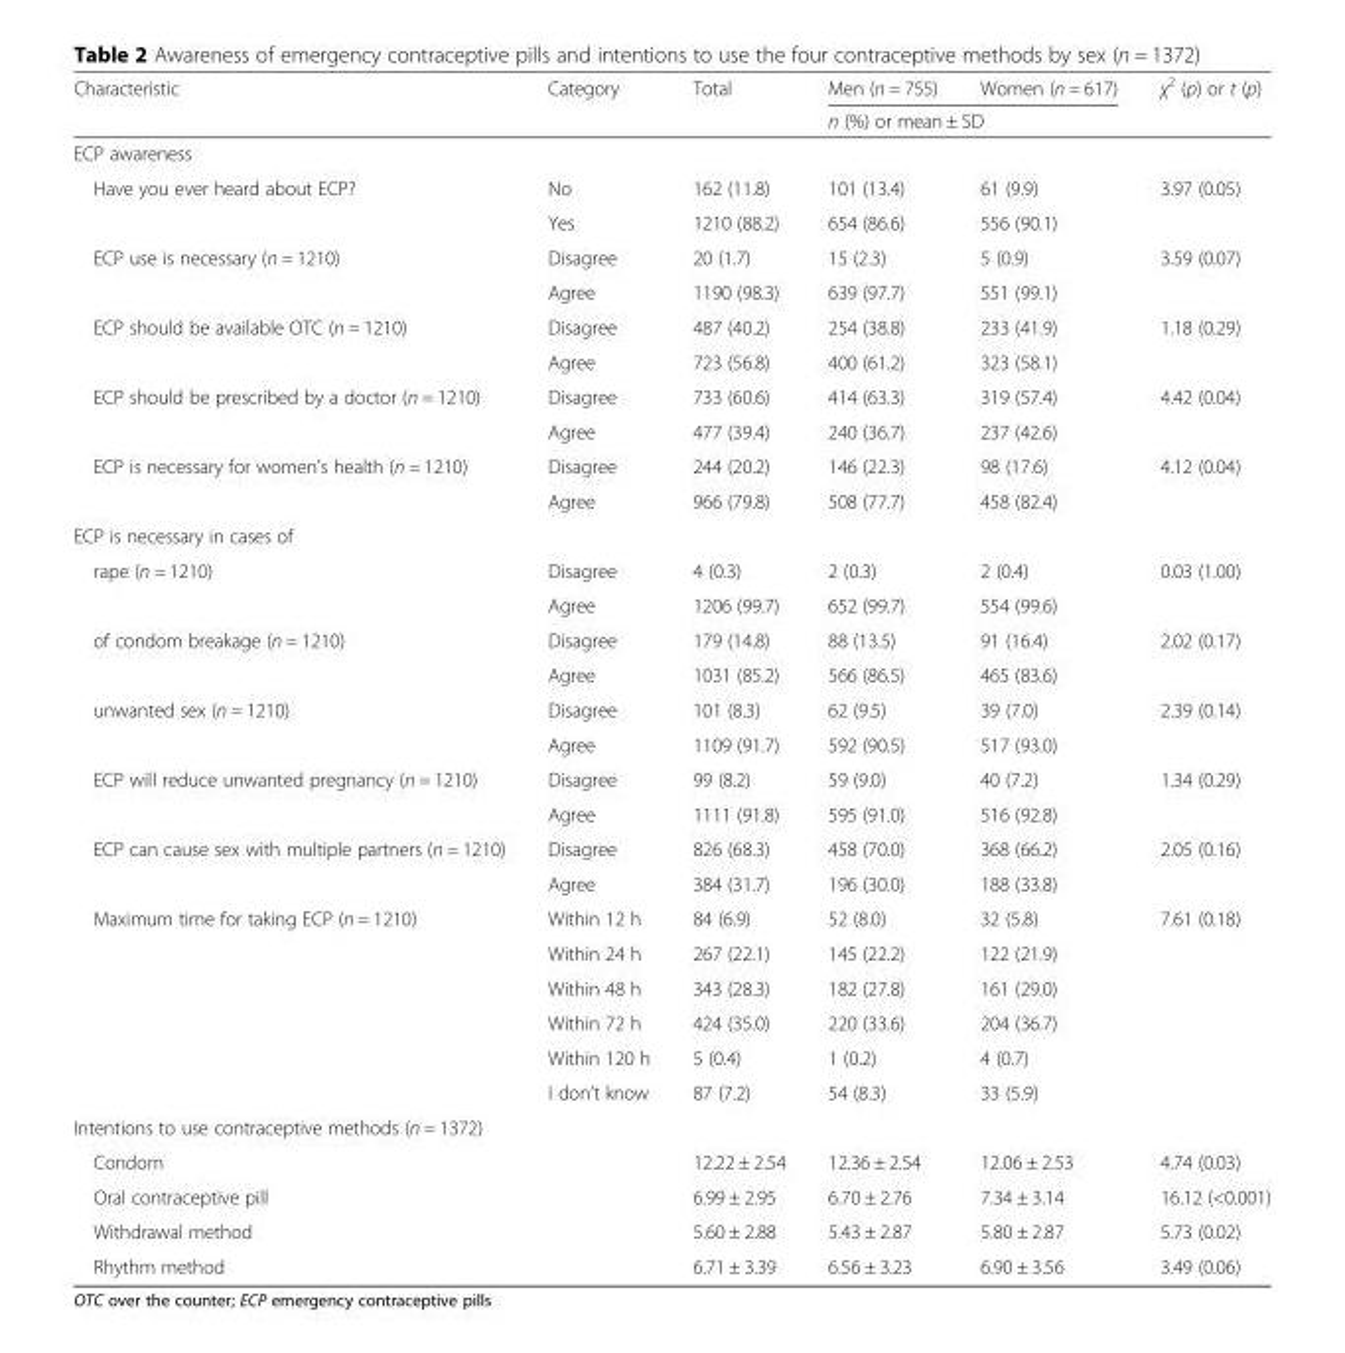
<table><thead><tr><td rowspan="2">Characteristic</td><td rowspan="2">Category</td><td rowspan="2">Total</td><td>Men (n = 755)</td><td>Women (n = 617)</td><td rowspan="2">χ<sup>2</sup> (p) or t (p)</td></tr><tr><td colspan="2">n (%) or mean ± SD</td></tr></thead><tbody><tr><td colspan="6">ECP awareness</td></tr><tr><td rowspan="2">Have you ever heard about ECP?</td><td>No</td><td>162 (11.8)</td><td>101 (13.4)</td><td>61 (9.9)</td><td>3.97 (0.05)</td></tr><tr><td>Yes</td><td>1210 (88.2)</td><td>654 (86.6)</td><td>556 (90.1)</td><td></td></tr><tr><td rowspan="2">ECP use is necessary (n = 1210)</td><td>Disagree</td><td>20 (1.7)</td><td>15 (2.3)</td><td>5 (0.9)</td><td>3.59 (0.07)</td></tr><tr><td>Agree</td><td>1190 (98.3)</td><td>639 (97.7)</td><td>551 (99.1)</td><td></td></tr><tr><td rowspan="2">ECP should be available OTC (n = 1210)</td><td>Disagree</td><td>487 (40.2)</td><td>254 (38.8)</td><td>233 (41.9)</td><td>1.18 (0.29)</td></tr><tr><td>Agree</td><td>723 (56.8)</td><td>400 (61.2)</td><td>323 (58.1)</td><td></td></tr><tr><td rowspan="2">ECP should be prescribed by a doctor (n = 1210)</td><td>Disagree</td><td>733 (60.6)</td><td>414 (63.3)</td><td>319 (57.4)</td><td>4.42 (0.04)</td></tr><tr><td>Agree</td><td>477 (39.4)</td><td>240 (36.7)</td><td>237 (42.6)</td><td></td></tr><tr><td rowspan="2">ECP is necessary for women’s health (n = 1210)</td><td>Disagree</td><td>244 (20.2)</td><td>146 (22.3)</td><td>98 (17.6)</td><td>4.12 (0.04)</td></tr><tr><td>Agree</td><td>966 (79.8)</td><td>508 (77.7)</td><td>458 (82.4)</td><td></td></tr><tr><td colspan="6">ECP is necessary in cases of</td></tr><tr><td rowspan="2">rape (n = 1210)</td><td>Disagree</td><td>4 (0.3)</td><td>2 (0.3)</td><td>2 (0.4)</td><td>0.03 (1.00)</td></tr><tr><td>Agree</td><td>1206 (99.7)</td><td>652 (99.7)</td><td>554 (99.6)</td><td></td></tr><tr><td rowspan="2">of condom breakage (n = 1210)</td><td>Disagree</td><td>179 (14.8)</td><td>88 (13.5)</td><td>91 (16.4)</td><td>2.02 (0.17)</td></tr><tr><td>Agree</td><td>1031 (85.2)</td><td>566 (86.5)</td><td>465 (83.6)</td><td></td></tr><tr><td rowspan="2">unwanted sex (n = 1210)</td><td>Disagree</td><td>101 (8.3)</td><td>62 (9.5)</td><td>39 (7.0)</td><td>2.39 (0.14)</td></tr><tr><td>Agree</td><td>1109 (91.7)</td><td>592 (90.5)</td><td>517 (93.0)</td><td></td></tr><tr><td rowspan="2">ECP will reduce unwanted pregnancy (n = 1210)</td><td>Disagree</td><td>99 (8.2)</td><td>59 (9.0)</td><td>40 (7.2)</td><td>1.34 (0.29)</td></tr><tr><td>Agree</td><td>1111 (91.8)</td><td>595 (91.0)</td><td>516 (92.8)</td><td></td></tr><tr><td rowspan="2">ECP can cause sex with multiple partners (n = 1210)</td><td>Disagree</td><td>826 (68.3)</td><td>458 (70.0)</td><td>368 (66.2)</td><td>2.05 (0.16)</td></tr><tr><td>Agree</td><td>384 (31.7)</td><td>196 (30.0)</td><td>188 (33.8)</td><td></td></tr><tr><td rowspan="6">Maximum time for taking ECP (n = 1210)</td><td>Within 12 h</td><td>84 (6.9)</td><td>52 (8.0)</td><td>32 (5.8)</td><td>7.61 (0.18)</td></tr><tr><td>Within 24 h</td><td>267 (22.1)</td><td>145 (22.2)</td><td>122 (21.9)</td><td></td></tr><tr><td>Within 48 h</td><td>343 (28.3)</td><td>182 (27.8)</td><td>161 (29.0)</td><td></td></tr><tr><td>Within 72 h</td><td>424 (35.0)</td><td>220 (33.6)</td><td>204 (36.7)</td><td></td></tr><tr><td>Within 120 h</td><td>5 (0.4)</td><td>1 (0.2)</td><td>4 (0.7)</td><td></td></tr><tr><td>I don’t know</td><td>87 (7.2)</td><td>54 (8.3)</td><td>33 (5.9)</td><td></td></tr><tr><td colspan="6">Intentions to use contraceptive methods (n = 1372)</td></tr><tr><td colspan="2">Condom</td><td>12.22 ± 2.54</td><td>12.36 ± 2.54</td><td>12.06 ± 2.53</td><td>4.74 (0.03)</td></tr><tr><td colspan="2">Oral contraceptive pill</td><td>6.99 ± 2.95</td><td>6.70 ± 2.76</td><td>7.34 ± 3.14</td><td>16.12 (&lt;0.001)</td></tr><tr><td colspan="2">Withdrawal method</td><td>5.60 ± 2.88</td><td>5.43 ± 2.87</td><td>5.80 ± 2.87</td><td>5.73 (0.02)</td></tr><tr><td colspan="2">Rhythm method</td><td>6.71 ± 3.39</td><td>6.56 ± 3.23</td><td>6.90 ± 3.56</td><td>3.49 (0.06)</td></tr></tbody></table>